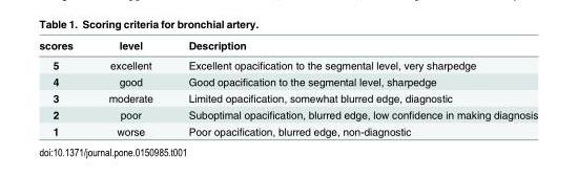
<table><thead><tr><td>scores</td><td>level</td><td>Description</td></tr></thead><tbody><tr><td>5</td><td>excellent</td><td>Excellent opacification to the segmental level, very sharpedge</td></tr><tr><td>4</td><td>good</td><td>Good opacification to the segmental level, sharpedge</td></tr><tr><td>3</td><td>moderate</td><td>Limited opacification, somewhat blurred edge, diagnostic</td></tr><tr><td>2</td><td>poor</td><td>Suboptimal opacification, blurred edge, low confidence in making diagnosis</td></tr><tr><td>1</td><td>worse</td><td>Poor opacification, blurred edge, non-diagnostic</td></tr></tbody></table>